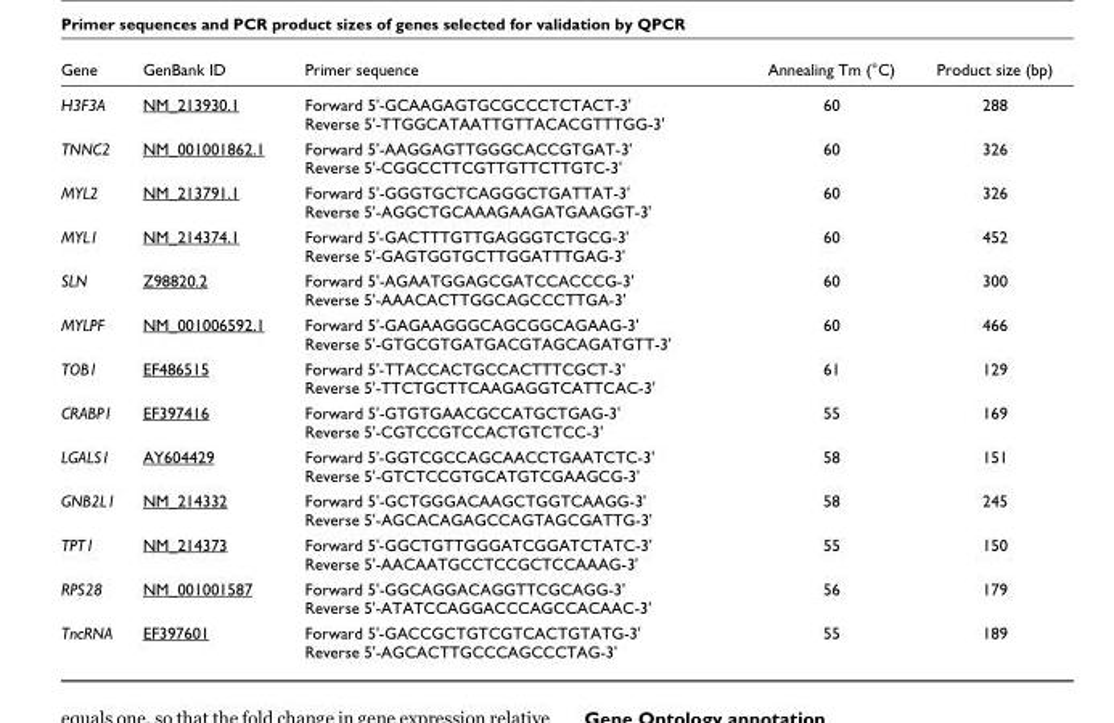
<table><thead><tr><td>Gene</td><td>GenBank ID</td><td>Primer sequence</td><td>Annealing Tm (°C)</td><td>Product size (bp)</td></tr></thead><tbody><tr><td>H3F3A</td><td>NM_213930.1</td><td>Forward 5&#x27;-GCAAGAGTGCGCCCTCTACT-3&#x27; Reverse 5&#x27;-TTGGCATAATTGTTACACGTTTGG-3&#x27;</td><td>60</td><td>288</td></tr><tr><td>TNNC2</td><td>NM_001001862.1</td><td>Forward 5&#x27;-AAGGAGTTGGGCACCGTGAT-3&#x27; Reverse 5&#x27;-CGGCCTTCGTTGTTCTTGTC-3&#x27;</td><td>60</td><td>326</td></tr><tr><td>MYL2</td><td>NM_213791.1</td><td>Forward 5&#x27;-GGGTGCTCAGGGCTGATTAT-3&#x27; Reverse 5&#x27;-AGGCTGCAAAGAAGATGAAGGT-3&#x27;</td><td>60</td><td>326</td></tr><tr><td>MYL1</td><td>NM_214374.1</td><td>Forward 5&#x27;-GACTTTGTTGAGGGTCTGCG-3&#x27; Reverse 5&#x27;-GAGTGGTGCTTGGATTTGAG-3&#x27;</td><td>60</td><td>452</td></tr><tr><td>SLN</td><td>Z98820.2</td><td>Forward 5&#x27;-AGAATGGAGCGATCCACCCG-3&#x27; Reverse 5&#x27;-AAACACTTGGCAGCCCTTGA-3&#x27;</td><td>60</td><td>300</td></tr><tr><td>MYLPF</td><td>NM_001006592.1</td><td>Forward 5&#x27;-GAGAAGGGCAGCGGCAGAAG-3&#x27; Reverse 5&#x27;-GTGCGTGATGACGTAGCAGATGTT-3&#x27;</td><td>60</td><td>466</td></tr><tr><td>TOB1</td><td>EF486515</td><td>Forward 5&#x27;-TTACCACTGCCACTTTCGCT-3&#x27; Reverse 5&#x27;-TTCTGCTTCAAGAGGTCATTCAC-3&#x27;</td><td>61</td><td>129</td></tr><tr><td>CRABP1</td><td>EF397416</td><td>Forward 5&#x27;-GTGTGAACGCCATGCTGAG-3&#x27; Reverse 5&#x27;-CGTCCGTCCACTGTCTCC-3&#x27;</td><td>55</td><td>169</td></tr><tr><td>LGALS1</td><td>AY604429</td><td>Forward 5&#x27;-GGTCGCCAGCAACCTGAATCTC-3&#x27; Reverse 5&#x27;-GTCTCCGTGCATGTCGAAGCG-3&#x27;</td><td>58</td><td>151</td></tr><tr><td>GNB2L1</td><td>NM_214332</td><td>Forward 5&#x27;-GCTGGGACAAGCTGGTCAAGG-3&#x27; Reverse 5&#x27;-AGCACAGAGCCAGTAGCGATTG-3&#x27;</td><td>58</td><td>245</td></tr><tr><td>TPT1</td><td>NM_214373</td><td>Forward 5&#x27;-GGCTGTTGGGATCGGATCTATC-3&#x27; Reverse 5&#x27;-AACAATGCCTCCGCTCCAAAG-3&#x27;</td><td>55</td><td>150</td></tr><tr><td>RPS28</td><td>NM_001001587</td><td>Forward 5&#x27;-GGCAGGACAGGTTCGCAGG-3&#x27; Reverse 5&#x27;-ATATCCAGGACCCAGCCACAAC-3&#x27;</td><td>56</td><td>179</td></tr><tr><td>TncRNA</td><td>EF397601</td><td>Forward 5&#x27;-GACCGCTGTCGTCACTGTATG-3&#x27; Reverse 5&#x27;-AGCACTTGCCCAGCCCTAG-3&#x27;</td><td>55</td><td>189</td></tr></tbody></table>